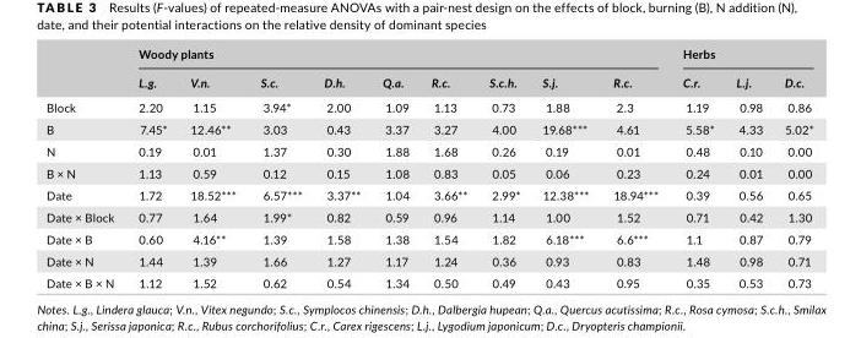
<table><thead><tr><td rowspan="2"></td><td colspan="9">Woody plants</td><td colspan="3">Herbs</td></tr><tr><td>L.g.</td><td>V.n.</td><td>S.c.</td><td>D.h.</td><td>Q.a.</td><td>R.c.</td><td>S.c.h.</td><td>S.j.</td><td>R.c.</td><td>C.r.</td><td>L.j.</td><td>D.c.</td></tr></thead><tbody><tr><td>Block</td><td>2.20</td><td>1.15</td><td>3.94*</td><td>2.00</td><td>1.09</td><td>1.13</td><td>0.73</td><td>1.88</td><td>2.3</td><td>1.19</td><td>0.98</td><td>0.86</td></tr><tr><td>B</td><td>7.45*</td><td>12.46**</td><td>3.03</td><td>0.43</td><td>3.37</td><td>3.27</td><td>4.00</td><td>19.68***</td><td>4.61</td><td>5.58*</td><td>4.33</td><td>5.02*</td></tr><tr><td>N</td><td>0.19</td><td>0.01</td><td>1.37</td><td>0.30</td><td>1.88</td><td>1.68</td><td>0.26</td><td>0.19</td><td>0.01</td><td>0.48</td><td>0.10</td><td>0.00</td></tr><tr><td>B × N</td><td>1.13</td><td>0.59</td><td>0.12</td><td>0.15</td><td>1.08</td><td>0.83</td><td>0.05</td><td>0.06</td><td>0.23</td><td>0.24</td><td>0.01</td><td>0.00</td></tr><tr><td>Date</td><td>1.72</td><td>18.52***</td><td>6.57***</td><td>3.37**</td><td>1.04</td><td>3.66**</td><td>2.99*</td><td>12.38***</td><td>18.94***</td><td>0.39</td><td>0.56</td><td>0.65</td></tr><tr><td>Date × Block</td><td>0.77</td><td>1.64</td><td>1.99*</td><td>0.82</td><td>0.59</td><td>0.96</td><td>1.14</td><td>1.00</td><td>1.52</td><td>0.71</td><td>0.42</td><td>1.30</td></tr><tr><td>Date × B</td><td>0.60</td><td>4.16**</td><td>1.39</td><td>1.58</td><td>1.38</td><td>1.54</td><td>1.82</td><td>6.18***</td><td>6.6***</td><td>1.1</td><td>0.87</td><td>0.79</td></tr><tr><td>Date × N</td><td>1.44</td><td>1.39</td><td>1.66</td><td>1.27</td><td>1.17</td><td>1.24</td><td>0.36</td><td>0.93</td><td>0.83</td><td>1.48</td><td>0.98</td><td>0.71</td></tr><tr><td>Date × B × N</td><td>1.12</td><td>1.52</td><td>0.62</td><td>0.54</td><td>1.34</td><td>0.50</td><td>0.49</td><td>0.43</td><td>0.95</td><td>0.35</td><td>0.53</td><td>0.73</td></tr></tbody></table>